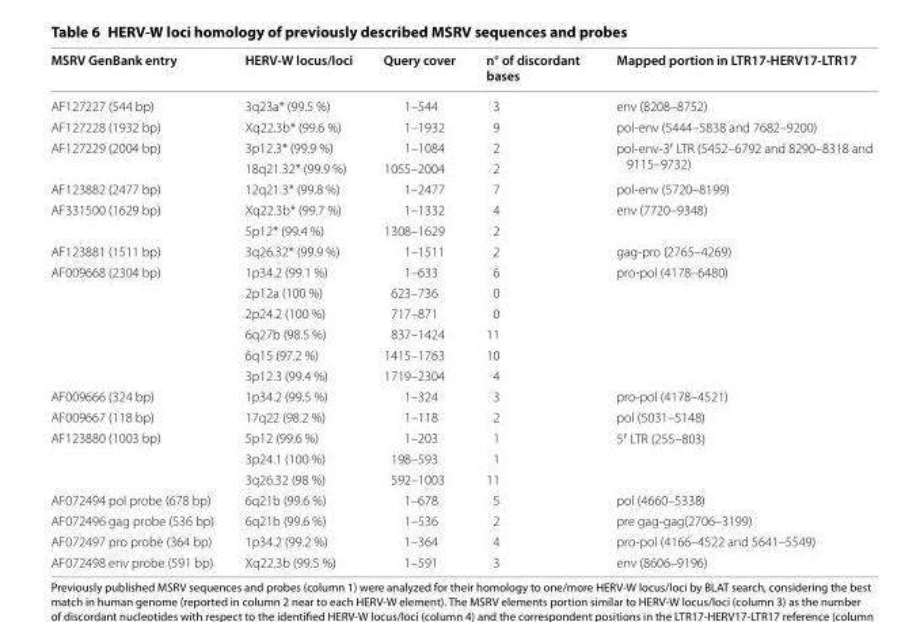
<table><thead><tr><td>MSRV GenBank entry</td><td>HERV‑W locus/loci</td><td>Query cover</td><td>n° of discordant bases</td><td>Mapped portion in LTR17‑HERV17‑LTR17</td></tr></thead><tbody><tr><td>AF127227 (544 bp)</td><td>3q23a* (99.5 %)</td><td>1–544</td><td>3</td><td>env (8208–8752)</td></tr><tr><td>AF127228 (1932 bp)</td><td>Xq22.3b* (99.6 %)</td><td>1–1932</td><td>9</td><td>pol-env (5444–5838 and 7682–9200)</td></tr><tr><td rowspan="2">AF127229 (2004 bp)</td><td>3p12.3* (99.9 %)</td><td>1–1084</td><td>2</td><td rowspan="2">pol-env-3′ LTR (5452–6792 and 8290–8318 and 9115–9732)</td></tr><tr><td>18q21.32* (99.9 %)</td><td>1055–2004</td><td>2</td></tr><tr><td>AF123882 (2477 bp)</td><td>12q21.3* (99.8 %)</td><td>1–2477</td><td>7</td><td>pol-env (5720–8199)</td></tr><tr><td rowspan="2">AF331500 (1629 bp)</td><td>Xq22.3b* (99.7 %)</td><td>1–1332</td><td>4</td><td rowspan="2">env (7720–9348)</td></tr><tr><td>5p12* (99.4 %)</td><td>1308–1629</td><td>2</td></tr><tr><td>AF123881 (1511 bp)</td><td>3q26.32* (99.9 %)</td><td>1–1511</td><td>2</td><td>gag-pro (2765–4269)</td></tr><tr><td rowspan="6">AF009668 (2304 bp)</td><td>1p34.2 (99.1 %)</td><td>1–633</td><td>6</td><td rowspan="6">pro-pol (4178–6480)</td></tr><tr><td>2p12a (100 %)</td><td>623–736</td><td>0</td></tr><tr><td>2p24.2 (100 %)</td><td>717–871</td><td>0</td></tr><tr><td>6q27b (98.5 %)</td><td>837–1424</td><td>11</td></tr><tr><td>6q15 (97.2 %)</td><td>1415–1763</td><td>10</td></tr><tr><td>3p12.3 (99.4 %)</td><td>1719–2304</td><td>4</td></tr><tr><td>AF009666 (324 bp)</td><td>1p34.2 (99.5 %)</td><td>1–324</td><td>3</td><td>pro-pol (4178–4521)</td></tr><tr><td>AF009667 (118 bp)</td><td>17q22 (98.2 %)</td><td>1–118</td><td>2</td><td>pol (5031–5148)</td></tr><tr><td rowspan="3">AF123880 (1003 bp)</td><td>5p12 (99.6 %)</td><td>1–203</td><td>1</td><td rowspan="3">5′ LTR (255–803)</td></tr><tr><td>3p24.1 (100 %)</td><td>198–593</td><td>1</td></tr><tr><td>3q26.32 (98 %)</td><td>592–1003</td><td>11</td></tr><tr><td>AF072494 pol probe (678 bp)</td><td>6q21b (99.6 %)</td><td>1–678</td><td>5</td><td>pol (4660–5338)</td></tr><tr><td>AF072496 gag probe (536 bp)</td><td>6q21b (99.6 %)</td><td>1–536</td><td>2</td><td>pre gag-gag(2706–3199)</td></tr><tr><td>AF072497 pro probe (364 bp)</td><td>1p34.2 (99.2 %)</td><td>1–364</td><td>4</td><td>pro-pol (4166–4522 and 5641–5549)</td></tr><tr><td>AF072498 env probe (591 bp)</td><td>Xq22.3b (99.5 %)</td><td>1–591</td><td>3</td><td>env (8606–9196)</td></tr></tbody></table>